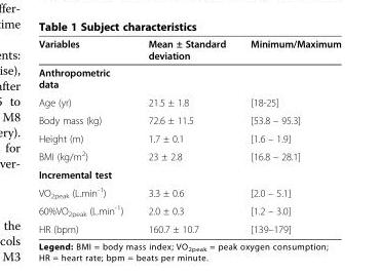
<table><thead><tr><td>Variables</td><td>Mean ± Standard deviation</td><td>Minimum/Maximum</td></tr></thead><tbody><tr><td colspan="3">Anthropometric data</td></tr><tr><td>Age (yr)</td><td>21.5 ± 1.8</td><td>[18-25]</td></tr><tr><td>Body mass (kg)</td><td>72.6 ± 11.5</td><td>[53.8 – 95.3]</td></tr><tr><td>Height (m)</td><td>1.7 ± 0.1</td><td>[1.6 – 1.9]</td></tr><tr><td>BMI (kg/m<sup>2</sup>)</td><td>23 ± 2.8</td><td>[16.8 – 28.1]</td></tr><tr><td colspan="3">Incremental test</td></tr><tr><td>VO<sub>2peak</sub> (L.min<sup>-1</sup>)</td><td>3.3 ± 0.6</td><td>[2.0 – 5.1]</td></tr><tr><td>60%VO<sub>2peak</sub> (L.min<sup>-1</sup>)</td><td>2.0 ± 0.3</td><td>[1.2 – 3.0]</td></tr><tr><td>HR (bpm)</td><td>160.7 ± 10.7</td><td>[139–179]</td></tr></tbody></table>